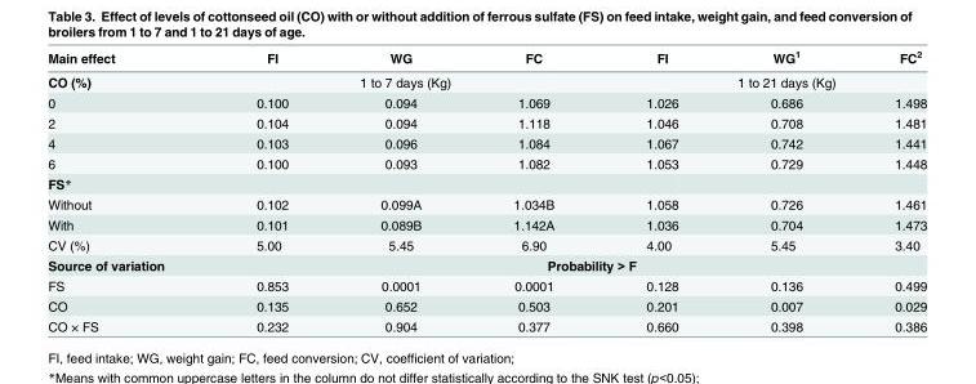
<table><thead><tr><td>Main effect</td><td>FI</td><td>WG</td><td>FC</td><td>FI</td><td>WG<sup>1</sup></td><td>FC<sup>2</sup></td></tr></thead><tbody><tr><td>CO (%)</td><td colspan="3">1 to 7 days (Kg)</td><td colspan="3">1 to 21 days (Kg)</td></tr><tr><td>0</td><td>0.100</td><td>0.094</td><td>1.069</td><td>1.026</td><td>0.686</td><td>1.498</td></tr><tr><td>2</td><td>0.104</td><td>0.094</td><td>1.118</td><td>1.046</td><td>0.708</td><td>1.481</td></tr><tr><td>4</td><td>0.103</td><td>0.096</td><td>1.084</td><td>1.067</td><td>0.742</td><td>1.441</td></tr><tr><td>6</td><td>0.100</td><td>0.093</td><td>1.082</td><td>1.053</td><td>0.729</td><td>1.448</td></tr><tr><td colspan="7">FS*</td></tr><tr><td>Without</td><td>0.102</td><td>0.099A</td><td>1.034B</td><td>1.058</td><td>0.726</td><td>1.461</td></tr><tr><td>With</td><td>0.101</td><td>0.089B</td><td>1.142A</td><td>1.036</td><td>0.704</td><td>1.473</td></tr><tr><td>CV (%)</td><td>5.00</td><td>5.45</td><td>6.90</td><td>4.00</td><td>5.45</td><td>3.40</td></tr><tr><td>Source of variation</td><td colspan="6">Probability &gt; F</td></tr><tr><td>FS</td><td>0.853</td><td>0.0001</td><td>0.0001</td><td>0.128</td><td>0.136</td><td>0.499</td></tr><tr><td>CO</td><td>0.135</td><td>0.652</td><td>0.503</td><td>0.201</td><td>0.007</td><td>0.029</td></tr><tr><td>CO × FS</td><td>0.232</td><td>0.904</td><td>0.377</td><td>0.660</td><td>0.398</td><td>0.386</td></tr></tbody></table>